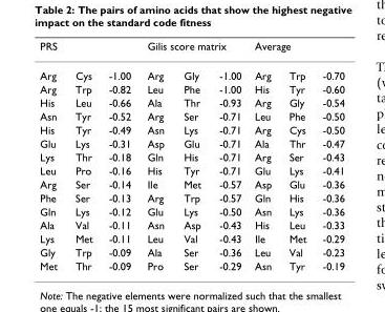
<table><thead><tr><td colspan="3">PRS</td><td colspan="3">Gilis score matrix</td><td colspan="3">Average</td></tr><tr><td>Arg</td><td>Cys</td><td>-1.00</td><td>Arg</td><td>Gly</td><td>-1.00</td><td>Arg</td><td>Trp</td><td>-0.70</td></tr></thead><tbody><tr><td>Arg</td><td>Trp</td><td>-0.82</td><td>Leu</td><td>Phe</td><td>-1.00</td><td>His</td><td>Tyr</td><td>-0.60</td></tr><tr><td>His</td><td>Leu</td><td>-0.66</td><td>Ala</td><td>Thr</td><td>-0.93</td><td>Arg</td><td>Gly</td><td>-0.54</td></tr><tr><td>Asn</td><td>Tyr</td><td>-0.52</td><td>Arg</td><td>Ser</td><td>-0.71</td><td>Leu</td><td>Phe</td><td>-0.50</td></tr><tr><td>His</td><td>Tyr</td><td>-0.49</td><td>Asn</td><td>Lys</td><td>-0.71</td><td>Arg</td><td>Cys</td><td>-0.50</td></tr><tr><td>Glu</td><td>Lys</td><td>-0.31</td><td>Asp</td><td>Glu</td><td>-0.71</td><td>Ala</td><td>Thr</td><td>-0.47</td></tr><tr><td>Lys</td><td>Thr</td><td>-0.18</td><td>Gln</td><td>His</td><td>-0.71</td><td>Arg</td><td>Ser</td><td>-0.43</td></tr><tr><td>Leu</td><td>Pro</td><td>-0.16</td><td>His</td><td>Tyr</td><td>-0.71</td><td>Glu</td><td>Lys</td><td>-0.41</td></tr><tr><td>Arg</td><td>Ser</td><td>-0.14</td><td>Ile</td><td>Met</td><td>-0.57</td><td>Asp</td><td>Glu</td><td>-0.36</td></tr><tr><td>Phe</td><td>Ser</td><td>-0.13</td><td>Arg</td><td>Trp</td><td>-0.57</td><td>Gln</td><td>His</td><td>-0.36</td></tr><tr><td>Gln</td><td>Lys</td><td>-0.12</td><td>Glu</td><td>Lys</td><td>-0.50</td><td>Asn</td><td>Lys</td><td>-0.36</td></tr><tr><td>Ala</td><td>Val</td><td>-0.11</td><td>Asn</td><td>Asp</td><td>-0.43</td><td>His</td><td>Leu</td><td>-0.33</td></tr><tr><td>Lys</td><td>Met</td><td>-0.11</td><td>Leu</td><td>Val</td><td>-0.43</td><td>Ile</td><td>Met</td><td>-0.29</td></tr><tr><td>Gly</td><td>Trp</td><td>-0.09</td><td>Ala</td><td>Ser</td><td>-0.36</td><td>Leu</td><td>Val</td><td>-0.23</td></tr><tr><td>Met</td><td>Thr</td><td>-0.09</td><td>Pro</td><td>Ser</td><td>-0.29</td><td>Asn</td><td>Tyr</td><td>-0.19</td></tr></tbody></table>